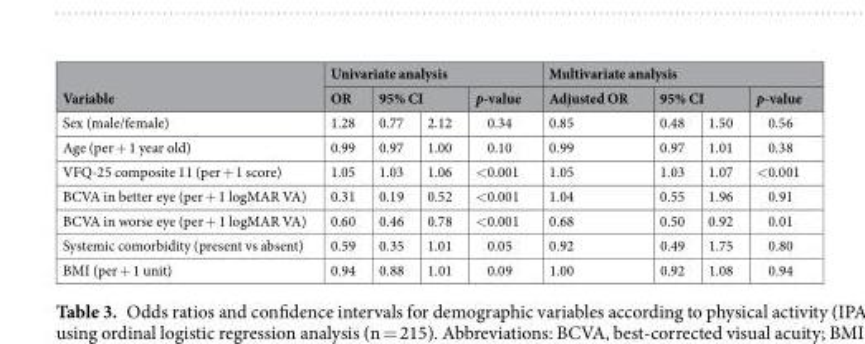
<table><thead><tr><td rowspan="3">Variable Sex (male/female)</td><td colspan="4">Univariate analysis</td><td colspan="4">Multivariate analysis</td></tr><tr><td rowspan="2">OR 1.28</td><td colspan="2">95% CI</td><td rowspan="2">p-value 0.34</td><td rowspan="2">Adjusted OR 0.85</td><td colspan="2">95% CI</td><td rowspan="2">p-value 0.56</td></tr><tr><td>0.77</td><td>2.12</td><td>0.48</td><td>1.50</td></tr></thead><tbody><tr><td>Age (per + 1 year old)</td><td>0.99</td><td>0.97</td><td>1.00</td><td>0.10</td><td>0.99</td><td>0.97</td><td>1.01</td><td>0.38</td></tr><tr><td>VFQ-25 composite 11 (per + 1 score)</td><td>1.05</td><td>1.03</td><td>1.06</td><td>&lt;0.001</td><td>1.05</td><td>1.03</td><td>1.07</td><td>&lt;0.001</td></tr><tr><td>BCVA in better eye (per + 1 logMAR VA)</td><td>0.31</td><td>0.19</td><td>0.52</td><td>&lt;0.001</td><td>1.04</td><td>0.55</td><td>1.96</td><td>0.91</td></tr><tr><td>BCVA in worse eye (per + 1 logMAR VA)</td><td>0.60</td><td>0.46</td><td>0.78</td><td>&lt;0.001</td><td>0.68</td><td>0.50</td><td>0.92</td><td>0.01</td></tr><tr><td>Systemic comorbidity (present vs absent)</td><td>0.59</td><td>0.35</td><td>1.01</td><td>0.05</td><td>0.92</td><td>0.49</td><td>1.75</td><td>0.80</td></tr><tr><td>BMI (per + 1 unit)</td><td>0.94</td><td>0.88</td><td>1.01</td><td>0.09</td><td>1.00</td><td>0.92</td><td>1.08</td><td>0.94</td></tr></tbody></table>